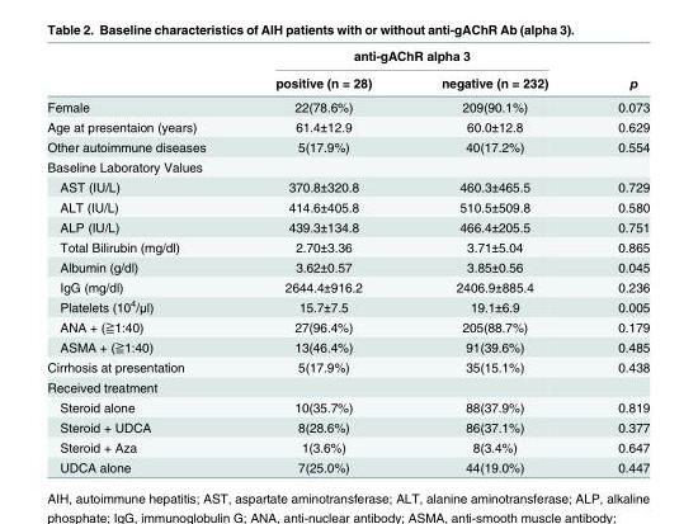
<table><thead><tr><td rowspan="2"></td><td colspan="2">anti-gAChR alpha 3</td><td rowspan="2">p</td></tr><tr><td>positive (n = 28)</td><td>negative (n = 232)</td></tr></thead><tbody><tr><td>Female</td><td>22(78.6%)</td><td>209(90.1%)</td><td>0.073</td></tr><tr><td>Age at presentaion (years)</td><td>61.4±12.9</td><td>60.0±12.8</td><td>0.629</td></tr><tr><td>Other autoimmune diseases</td><td>5(17.9%)</td><td>40(17.2%)</td><td>0.554</td></tr><tr><td colspan="4">Baseline Laboratory Values</td></tr><tr><td>AST (IU/L)</td><td>370.8±320.8</td><td>460.3±465.5</td><td>0.729</td></tr><tr><td>ALT (IU/L)</td><td>414.6±405.8</td><td>510.5±509.8</td><td>0.580</td></tr><tr><td>ALP (IU/L)</td><td>439.3±134.8</td><td>466.4±205.5</td><td>0.751</td></tr><tr><td>Total Bilirubin (mg/dl)</td><td>2.70±3.36</td><td>3.71±5.04</td><td>0.865</td></tr><tr><td>Albumin (g/dl)</td><td>3.62±0.57</td><td>3.85±0.56</td><td>0.045</td></tr><tr><td>IgG (mg/dl)</td><td>2644.4±916.2</td><td>2406.9±885.4</td><td>0.236</td></tr><tr><td>Platelets (10<sup>4</sup>/μl)</td><td>15.7±7.5</td><td>19.1±6.9</td><td>0.005</td></tr><tr><td>ANA + (≧1:40)</td><td>27(96.4%)</td><td>205(88.7%)</td><td>0.179</td></tr><tr><td>ASMA + (≧1:40)</td><td>13(46.4%)</td><td>91(39.6%)</td><td>0.485</td></tr><tr><td>Cirrhosis at presentation</td><td>5(17.9%)</td><td>35(15.1%)</td><td>0.438</td></tr><tr><td colspan="4">Received treatment</td></tr><tr><td>Steroid alone</td><td>10(35.7%)</td><td>88(37.9%)</td><td>0.819</td></tr><tr><td>Steroid + UDCA</td><td>8(28.6%)</td><td>86(37.1%)</td><td>0.377</td></tr><tr><td>Steroid + Aza</td><td>1(3.6%)</td><td>8(3.4%)</td><td>0.647</td></tr><tr><td>UDCA alone</td><td>7(25.0%)</td><td>44(19.0%)</td><td>0.447</td></tr></tbody></table>